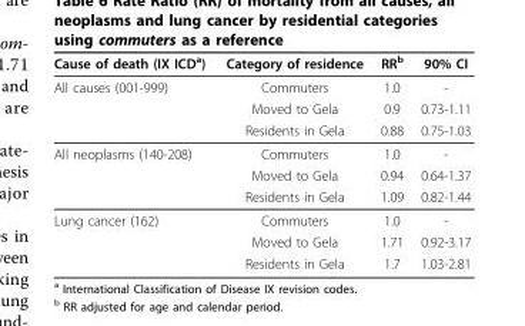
<table><thead><tr><td>Cause of death (IX ICD<sup>a</sup>)</td><td>Category of residence</td><td>RR<sup>b</sup></td><td>90% CI</td></tr></thead><tbody><tr><td rowspan="3">All causes (001-999)</td><td>Commuters</td><td>1.0</td><td>-</td></tr><tr><td>Moved to Gela</td><td>0.9</td><td>0.73-1.11</td></tr><tr><td>Residents in Gela</td><td>0.88</td><td>0.75-1.03</td></tr><tr><td rowspan="3">All neoplasms (140-208)</td><td>Commuters</td><td>1.0</td><td>-</td></tr><tr><td>Moved to Gela</td><td>0.94</td><td>0.64-1.37</td></tr><tr><td>Residents in Gela</td><td>1.09</td><td>0.82-1.44</td></tr><tr><td rowspan="3">Lung cancer (162)</td><td>Commuters</td><td>1.0</td><td>-</td></tr><tr><td>Moved to Gela</td><td>1.71</td><td>0.92-3.17</td></tr><tr><td>Residents in Gela</td><td>1.7</td><td>1.03-2.81</td></tr></tbody></table>